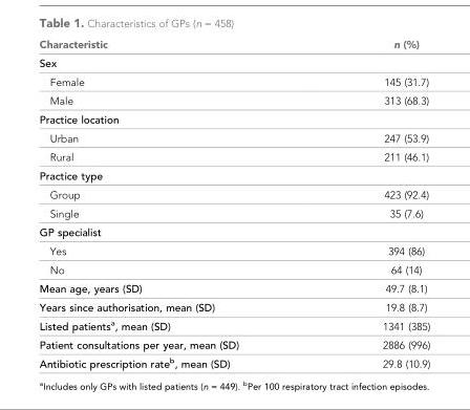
<table><thead><tr><td>Characteristic</td><td>n (%)</td></tr></thead><tbody><tr><td colspan="2">Sex</td></tr><tr><td>Female</td><td>145 (31.7)</td></tr><tr><td>Male</td><td>313 (68.3)</td></tr><tr><td colspan="2">Practice location</td></tr><tr><td>Urban</td><td>247 (53.9)</td></tr><tr><td>Rural</td><td>211 (46.1)</td></tr><tr><td colspan="2">Practice type</td></tr><tr><td>Group</td><td>423 (92.4)</td></tr><tr><td>Single</td><td>35 (7.6)</td></tr><tr><td colspan="2">GP specialist</td></tr><tr><td>Yes</td><td>394 (86)</td></tr><tr><td>No</td><td>64 (14)</td></tr><tr><td>Mean age, years (SD)</td><td>49.7 (8.1)</td></tr><tr><td>Years since authorisation, mean (SD)</td><td>19.8 (8.7)</td></tr><tr><td>Listed patients<sup>a</sup>, mean (SD)</td><td>1341 (385)</td></tr><tr><td>Patient consultations per year, mean (SD)</td><td>2886 (996)</td></tr><tr><td>Antibiotic prescription rate<sup>b</sup>, mean (SD)</td><td>29.8 (10.9)</td></tr></tbody></table>